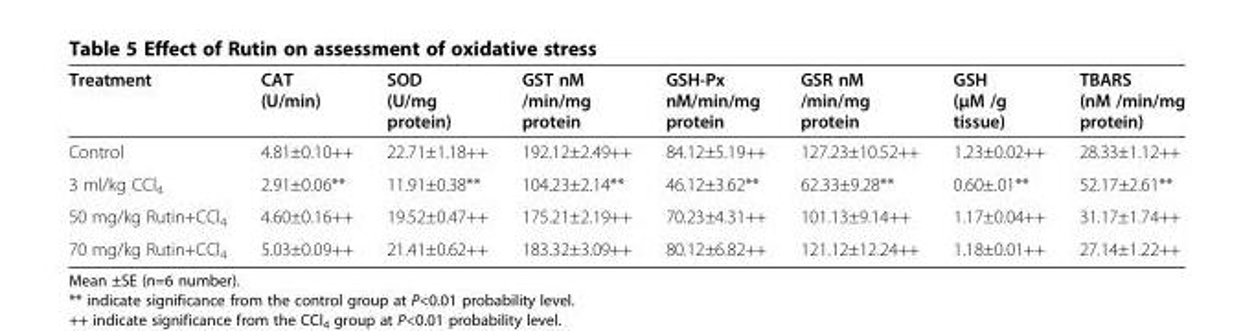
<table><thead><tr><td>Treatment</td><td>CAT (U/min)</td><td>SOD (U/mg protein)</td><td>GST nM /min/mg protein</td><td>GSH-Px nM/min/mg protein</td><td>GSR nM /min/mg protein</td><td>GSH (μM /g tissue)</td><td>TBARS (nM /min/mg protein)</td></tr></thead><tbody><tr><td>Control</td><td>4.81±0.10++</td><td>22.71±1.18++</td><td>192.12±2.49++</td><td>84.12±5.19++</td><td>127.23±10.52++</td><td>1.23±0.02++</td><td>28.33±1.12++</td></tr><tr><td>3 ml/kg CCl<sub>4</sub></td><td>2.91±0.06**</td><td>11.91±0.38**</td><td>104.23±2.14**</td><td>46.12±3.62**</td><td>62.33±9.28**</td><td>0.60±.01**</td><td>52.17±2.61**</td></tr><tr><td>50 mg/kg Rutin+CCl<sub>4</sub></td><td>4.60±0.16++</td><td>19.52±0.47++</td><td>175.21±2.19++</td><td>70.23±4.31++</td><td>101.13±9.14++</td><td>1.17±0.04++</td><td>31.17±1.74++</td></tr><tr><td>70 mg/kg Rutin+CCl<sub>4</sub></td><td>5.03±0.09++</td><td>21.41±0.62++</td><td>183.32±3.09++</td><td>80.12±6.82++</td><td>121.12±12.24++</td><td>1.18±0.01++</td><td>27.14±1.22++</td></tr></tbody></table>